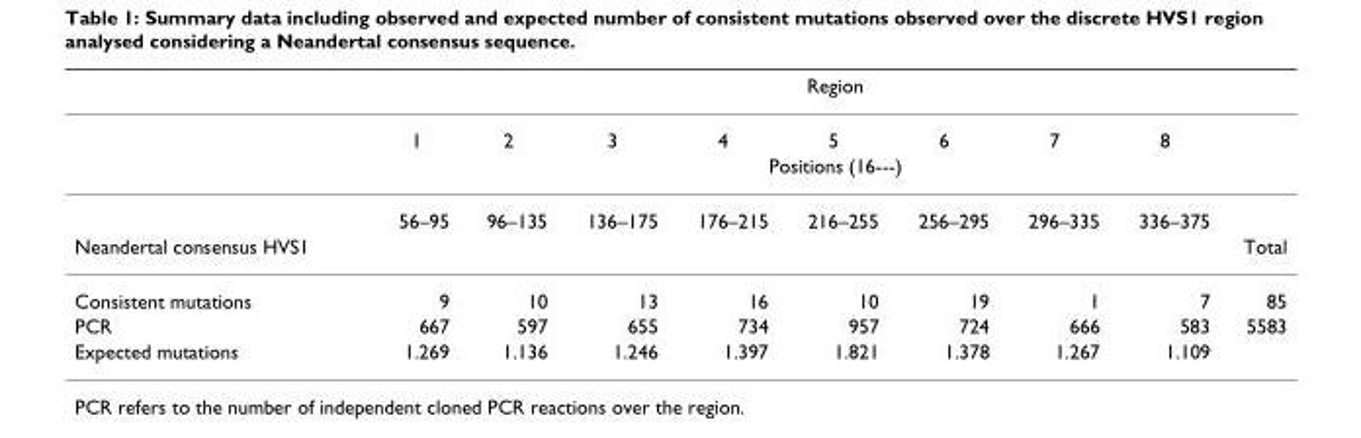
<table><thead><tr><td rowspan="2"></td><td colspan="9">Region</td></tr><tr><td>1</td><td>2</td><td>3</td><td>4</td><td>5</td><td>6</td><td>7</td><td>8</td><td></td></tr></thead><tbody><tr><td></td><td colspan="9">Positions (16---)</td></tr><tr><td></td><td>56–95</td><td>96–135</td><td>136–175</td><td>176–215</td><td>216–255</td><td>256–295</td><td>296–335</td><td>336–375</td><td></td></tr><tr><td>Neandertal consensus HVS1</td><td></td><td></td><td></td><td></td><td></td><td></td><td></td><td></td><td>Total</td></tr><tr><td>Consistent mutations</td><td>9</td><td>10</td><td>13</td><td>16</td><td>10</td><td>19</td><td>1</td><td>7</td><td>85</td></tr><tr><td>PCR</td><td>667</td><td>597</td><td>655</td><td>734</td><td>957</td><td>724</td><td>666</td><td>583</td><td>5583</td></tr><tr><td>Expected mutations</td><td>1.269</td><td>1.136</td><td>1.246</td><td>1.397</td><td>1.821</td><td>1.378</td><td>1.267</td><td>1.109</td><td></td></tr></tbody></table>